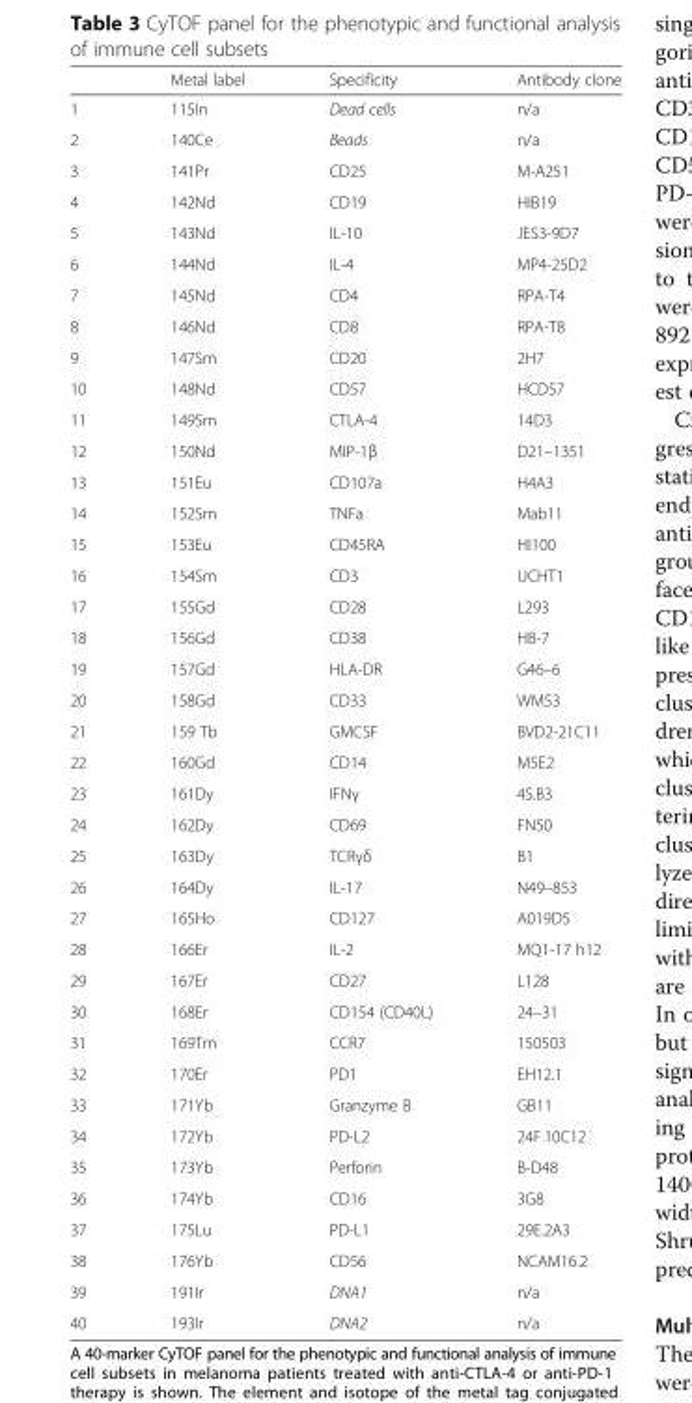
<table><thead><tr><td></td><td>Metal label</td><td>Specificity</td><td>Antibody clone</td></tr></thead><tbody><tr><td>1</td><td>115In</td><td>Dead cells</td><td>n/a</td></tr><tr><td>2</td><td>140Ce</td><td>Beads</td><td>n/a</td></tr><tr><td>3</td><td>141Pr</td><td>CD25</td><td>M-A251</td></tr><tr><td>4</td><td>142Nd</td><td>CD19</td><td>HIB19</td></tr><tr><td>5</td><td>143Nd</td><td>IL-10</td><td>JES3-9D7</td></tr><tr><td>6</td><td>144Nd</td><td>IL-4</td><td>MP4-25D2</td></tr><tr><td>7</td><td>145Nd</td><td>CD4</td><td>RPA-T4</td></tr><tr><td>8</td><td>146Nd</td><td>CD8</td><td>RPA-T8</td></tr><tr><td>9</td><td>147Sm</td><td>CD20</td><td>2H7</td></tr><tr><td>10</td><td>148Nd</td><td>CD57</td><td>HCD57</td></tr><tr><td>11</td><td>149Sm</td><td>CTLA-4</td><td>14D3</td></tr><tr><td>12</td><td>150Nd</td><td>MIP-1β</td><td>D21–1351</td></tr><tr><td>13</td><td>151Eu</td><td>CD107a</td><td>H4A3</td></tr><tr><td>14</td><td>152Sm</td><td>TNFa</td><td>Mab11</td></tr><tr><td>15</td><td>153Eu</td><td>CD45RA</td><td>HI100</td></tr><tr><td>16</td><td>154Sm</td><td>CD3</td><td>UCHT1</td></tr><tr><td>17</td><td>155Gd</td><td>CD28</td><td>L293</td></tr><tr><td>18</td><td>156Gd</td><td>CD38</td><td>HB-7</td></tr><tr><td>19</td><td>157Gd</td><td>HLA-DR</td><td>G46–6</td></tr><tr><td>20</td><td>158Gd</td><td>CD33</td><td>WM53</td></tr><tr><td>21</td><td>159 Tb</td><td>GMCSF</td><td>BVD2-21C11</td></tr><tr><td>22</td><td>160Gd</td><td>CD14</td><td>M5E2</td></tr><tr><td>23</td><td>161Dy</td><td>IFNγ</td><td>4S.B3</td></tr><tr><td>24</td><td>162Dy</td><td>CD69</td><td>FN50</td></tr><tr><td>25</td><td>163Dy</td><td>TCRγδ</td><td>B1</td></tr><tr><td>26</td><td>164Dy</td><td>IL-17</td><td>N49–853</td></tr><tr><td>27</td><td>165Ho</td><td>CD127</td><td>A019D5</td></tr><tr><td>28</td><td>166Er</td><td>IL-2</td><td>MQ1-17 h12</td></tr><tr><td>29</td><td>167Er</td><td>CD27</td><td>L128</td></tr><tr><td>30</td><td>168Er</td><td>CD154 (CD40L)</td><td>24–31</td></tr><tr><td>31</td><td>169Tm</td><td>CCR7</td><td>150503</td></tr><tr><td>32</td><td>170Er</td><td>PD1</td><td>EH12.1</td></tr><tr><td>33</td><td>171Yb</td><td>Granzyme B</td><td>GB11</td></tr><tr><td>34</td><td>172Yb</td><td>PD-L2</td><td>24F.10C12</td></tr><tr><td>35</td><td>173Yb</td><td>Perforin</td><td>B-D48</td></tr><tr><td>36</td><td>174Yb</td><td>CD16</td><td>3G8</td></tr><tr><td>37</td><td>175Lu</td><td>PD-L1</td><td>29E.2A3</td></tr><tr><td>38</td><td>176Yb</td><td>CD56</td><td>NCAM16.2</td></tr><tr><td>39</td><td>191Ir</td><td>DNA1</td><td>n/a</td></tr><tr><td>40</td><td>193Ir</td><td>DNA2</td><td>n/a</td></tr></tbody></table>